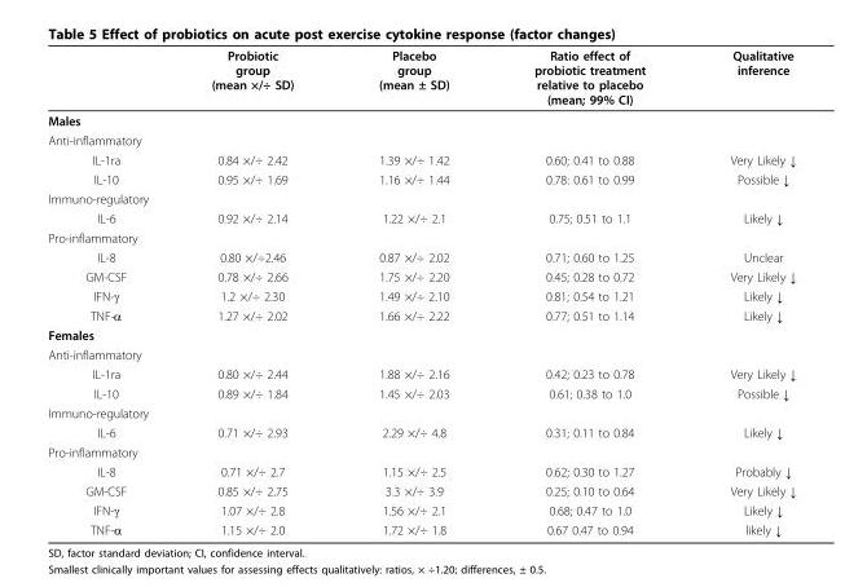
<table><thead><tr><td></td><td>Probiotic group (mean ×/÷ SD)</td><td>Placebo group (mean ± SD)</td><td>Ratio effect of probiotic treatment relative to placebo (mean; 99% CI)</td><td>Qualitative inference</td></tr></thead><tbody><tr><td colspan="5">Males</td></tr><tr><td colspan="5">Anti-inflammatory</td></tr><tr><td>IL-1ra</td><td>0.84 ×/÷ 2.42</td><td>1.39 ×/÷ 1.42</td><td>0.60; 0.41 to 0.88</td><td>Very Likely ↓</td></tr><tr><td>IL-10</td><td>0.95 ×/÷ 1.69</td><td>1.16 ×/÷ 1.44</td><td>0.78: 0.61 to 0.99</td><td>Possible ↓</td></tr><tr><td colspan="5">Immuno-regulatory</td></tr><tr><td>IL-6</td><td>0.92 ×/÷ 2.14</td><td>1.22 ×/÷ 2.1</td><td>0.75; 0.51 to 1.1</td><td>Likely ↓</td></tr><tr><td colspan="5">Pro-inflammatory</td></tr><tr><td>IL-8</td><td>0.80 ×/÷2.46</td><td>0.87 ×/÷ 2.02</td><td>0.71; 0.60 to 1.25</td><td>Unclear</td></tr><tr><td>GM-CSF</td><td>0.78 ×/÷ 2.66</td><td>1.75 ×/÷ 2.20</td><td>0.45; 0.28 to 0.72</td><td>Very Likely ↓</td></tr><tr><td>IFN-γ</td><td>1.2 ×/÷ 2.30</td><td>1.49 ×/÷ 2.10</td><td>0.81; 0.54 to 1.21</td><td>Likely ↓</td></tr><tr><td>TNF-α</td><td>1.27 ×/÷ 2.02</td><td>1.66 ×/÷ 2.22</td><td>0.77; 0.51 to 1.14</td><td>Likely ↓</td></tr><tr><td colspan="5">Females</td></tr><tr><td colspan="5">Anti-inflammatory</td></tr><tr><td>IL-1ra</td><td>0.80 ×/÷ 2.44</td><td>1.88 ×/÷ 2.16</td><td>0.42; 0.23 to 0.78</td><td>Very Likely ↓</td></tr><tr><td>IL-10</td><td>0.89 ×/÷ 1.84</td><td>1.45 ×/÷ 2.03</td><td>0.61; 0.38 to 1.0</td><td>Possible ↓</td></tr><tr><td colspan="5">Immuno-regulatory</td></tr><tr><td>IL-6</td><td>0.71 ×/÷ 2.93</td><td>2.29 ×/÷ 4.8</td><td>0.31; 0.11 to 0.84</td><td>Likely ↓</td></tr><tr><td colspan="5">Pro-inflammatory</td></tr><tr><td>IL-8</td><td>0.71 ×/÷ 2.7</td><td>1.15 ×/÷ 2.5</td><td>0.62; 0.30 to 1.27</td><td>Probably ↓</td></tr><tr><td>GM-CSF</td><td>0.85 ×/÷ 2.75</td><td>3.3 ×/÷ 3.9</td><td>0.25; 0.10 to 0.64</td><td>Very Likely ↓</td></tr><tr><td>IFN-γ</td><td>1.07 ×/÷ 2.8</td><td>1.56 ×/÷ 2.1</td><td>0.68; 0.47 to 1.0</td><td>Likely ↓</td></tr><tr><td>TNF-α</td><td>1.15 ×/÷ 2.0</td><td>1.72 ×/÷ 1.8</td><td>0.67 0.47 to 0.94</td><td>likely ↓</td></tr></tbody></table>